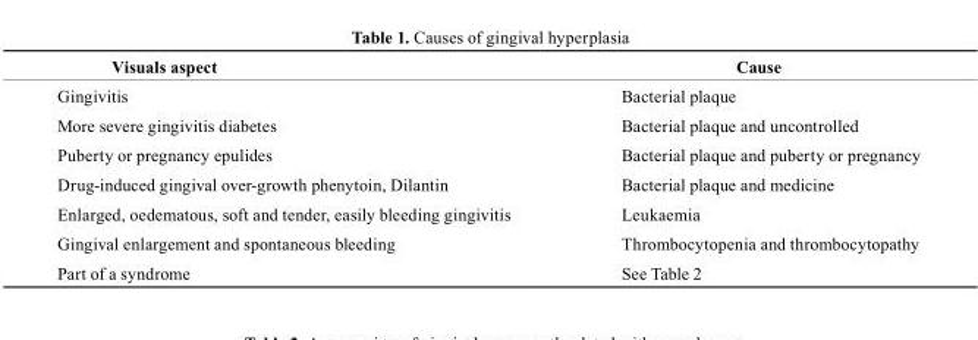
<table><thead><tr><td>Visuals aspect</td><td>cause</td></tr></thead><tbody><tr><td>Gingivitis</td><td>Bacterial plaque</td></tr><tr><td>More severe gingivitis diabetes</td><td>Bacterial plaque and uncontrolled</td></tr><tr><td>Puberty or pregnancy epulides</td><td>Bacterial plaque and puberty or pregnancy</td></tr><tr><td>Drug-induced gingival over-growth phenytoin, Dilantin</td><td>Bacterial plaque and medicine</td></tr><tr><td>Enlarged, oedematous, soft and tender, easily bleeding gingivitis</td><td>Leukaemia</td></tr><tr><td>Gingival enlargement and spontaneous bleeding</td><td>Thrombocytopenia and thrombocytopathy</td></tr><tr><td>Part of a syndrome</td><td>See Table 2</td></tr></tbody></table>